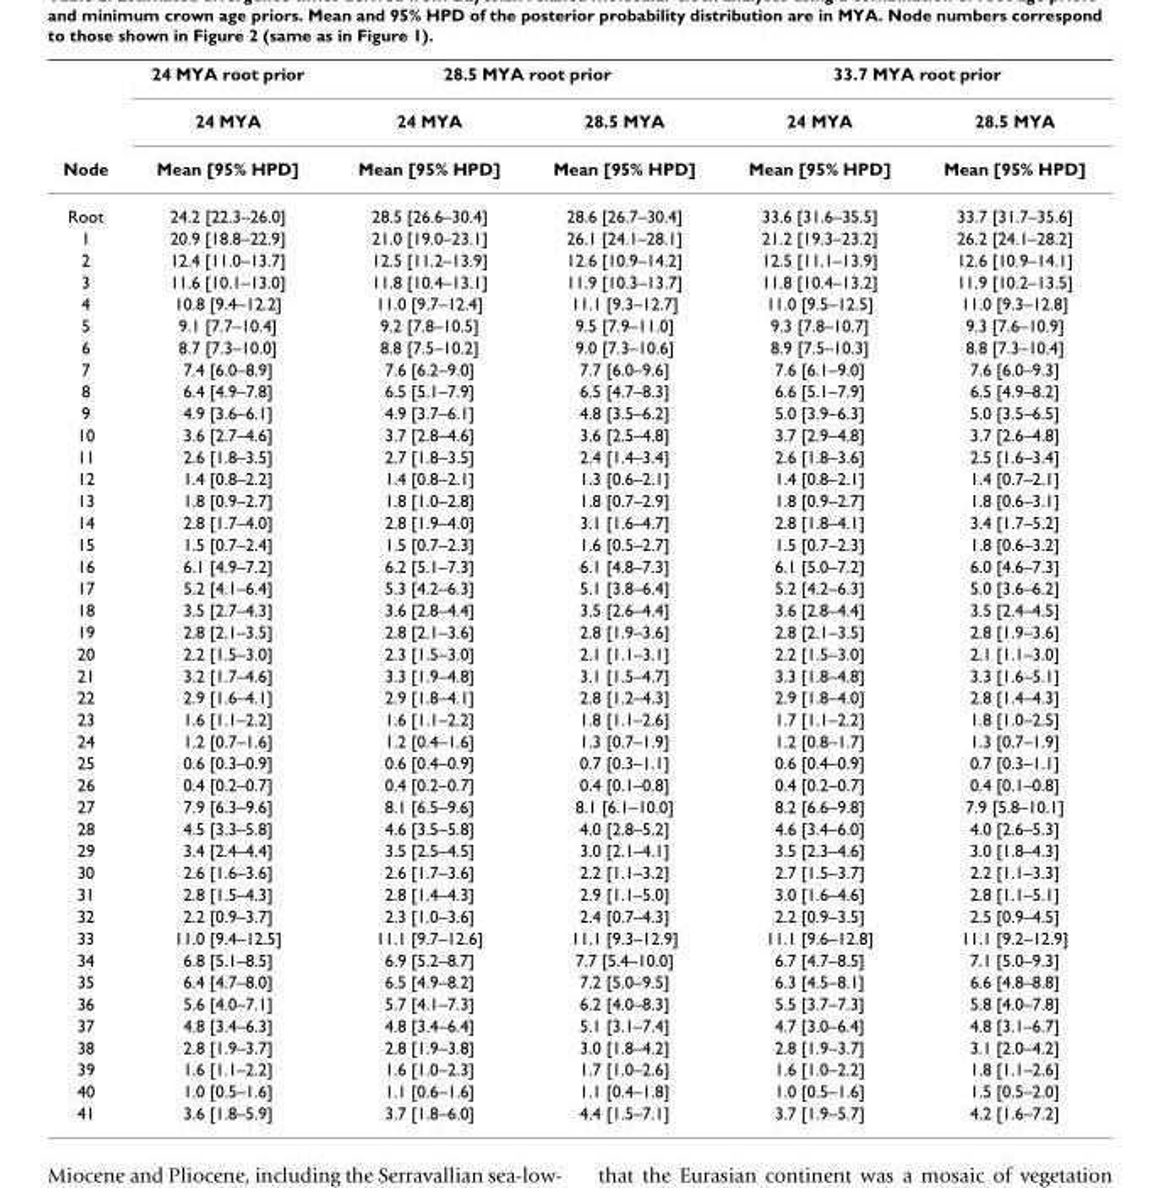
<table><thead><tr><td rowspan="3">Node</td><td rowspan="3">24 MYA root prior 24 MYA Mean [95% HPD]</td><td colspan="2">28.5 MYA root prior</td><td colspan="2">33.7 MYA root prior</td></tr><tr><td rowspan="2">24 MYA Mean [95% HPD]</td><td rowspan="2">28.5 MYA Mean [95% HPD]</td><td rowspan="2">24 MYA Mean [95% HPD]</td><td rowspan="2">28.5 MYA Mean [95% HPD]</td></tr><tr></tr></thead><tbody><tr><td>Root</td><td>24.2 [22.3–26.0]</td><td>28.5 [26.6–30.4]</td><td>28.6 [26.7–30.4]</td><td>33.6 [31.6–35.5]</td><td>33.7 [31.7–35.6]</td></tr><tr><td>1</td><td>20.9 [18.8–22.9]</td><td>21.0 [19.0–23.1]</td><td>26.1 [24.1–28.1]</td><td>21.2 [19.3–23.2]</td><td>26.2 [24.1–28.2]</td></tr><tr><td>2</td><td>12.4 [11.0–13.7]</td><td>12.5 [11.2–13.9]</td><td>12.6 [10.9–14.2]</td><td>12.5 [11.1–13.9]</td><td>12.6 [10.9–14.1]</td></tr><tr><td>3</td><td>11.6 [10.1–13.0]</td><td>11.8 [10.4–13.1]</td><td>11.9 [10.3–13.7]</td><td>11.8 [10.4–13.2]</td><td>11.9 [10.2–13.5]</td></tr><tr><td>4</td><td>10.8 [9.4–12.2]</td><td>11.0 [9.7–12.4]</td><td>11.1 [9.3–12.7]</td><td>11.0 [9.5–12.5]</td><td>11.0 [9.3–12.8]</td></tr><tr><td>5</td><td>9.1 [7.7–10.4]</td><td>9.2 [7.8–10.5]</td><td>9.5 [7.9–11.0]</td><td>9.3 [7.8–10.7]</td><td>9.3 [7.6–10.9]</td></tr><tr><td>6</td><td>8.7 [7.3–10.0]</td><td>8.8 [7.5–10.2]</td><td>9.0 [7.3–10.6]</td><td>8.9 [7.5–10.3]</td><td>8.8 [7.3–10.4]</td></tr><tr><td>7</td><td>7.4 [6.0–8.9]</td><td>7.6 [6.2–9.0]</td><td>7.7 [6.0–9.6]</td><td>7.6 [6.1–9.0]</td><td>7.6 [6.0–9.3]</td></tr><tr><td>8</td><td>6.4 [4.9–7.8]</td><td>6.5 [5.1–7.9]</td><td>6.5 [4.7–8.3]</td><td>6.6 [5.1–7.9]</td><td>6.5 [4.9–8.2]</td></tr><tr><td>9</td><td>4.9 [3.6–6.1]</td><td>4.9 [3.7–6.1]</td><td>4.8 [3.5–6.2]</td><td>5.0 [3.9–6.3]</td><td>5.0 [3.5–6.5]</td></tr><tr><td>10</td><td>3.6 [2.7–4.6]</td><td>3.7 [2.8–4.6]</td><td>3.6 [2.5–4.8]</td><td>3.7 [2.9–4.8]</td><td>3.7 [2.6–4.8]</td></tr><tr><td>11</td><td>2.6 [1.8–3.5]</td><td>2.7 [1.8–3.5]</td><td>2.4 [1.4–3.4]</td><td>2.6 [1.8–3.6]</td><td>2.5 [1.6–3.4]</td></tr><tr><td>12</td><td>1.4 [0.8–2.2]</td><td>1.4 [0.8–2.1]</td><td>1.3 [0.6–2.1]</td><td>1.4 [0.8–2.1]</td><td>1.4 [0.7–2.1]</td></tr><tr><td>13</td><td>1.8 [0.9–2.7]</td><td>1.8 [1.0–2.8]</td><td>1.8 [0.7–2.9]</td><td>1.8 [0.9–2.7]</td><td>1.8 [0.6–3.1]</td></tr><tr><td>14</td><td>2.8 [1.7–4.0]</td><td>2.8 [1.9–4.0]</td><td>3.1 [1.6–4.7]</td><td>2.8 [1.8–4.1]</td><td>3.4 [1.7–5.2]</td></tr><tr><td>15</td><td>1.5 [0.7–2.4]</td><td>1.5 [0.7–2.3]</td><td>1.6 [0.5–2.7]</td><td>1.5 [0.7–2.3]</td><td>1.8 [0.6–3.2]</td></tr><tr><td>16</td><td>6.1 [4.9–7.2]</td><td>6.2 [5.1–7.3]</td><td>6.1 [4.8–7.3]</td><td>6.1 [5.0–7.2]</td><td>6.0 [4.6–7.3]</td></tr><tr><td>17</td><td>5.2 [4.1–6.4]</td><td>5.3 [4.2–6.3]</td><td>5.1 [3.8–6.4]</td><td>5.2 [4.2–6.3]</td><td>5.0 [3.6–6.2]</td></tr><tr><td>18</td><td>3.5 [2.7–4.3]</td><td>3.6 [2.8–4.4]</td><td>3.5 [2.6–4.4]</td><td>3.6 [2.8–4.4]</td><td>3.5 [2.4–4.5]</td></tr><tr><td>19</td><td>2.8 [2.1–3.5]</td><td>2.8 [2.1–3.6]</td><td>2.8 [1.9–3.6]</td><td>2.8 [2.1–3.5]</td><td>2.8 [1.9–3.6]</td></tr><tr><td>20</td><td>2.2 [1.5–3.0]</td><td>2.3 [1.5–3.0]</td><td>2.1 [1.1–3.1]</td><td>2.2 [1.5–3.0]</td><td>2.1 [1.1–3.0]</td></tr><tr><td>21</td><td>3.2 [1.7–4.6]</td><td>3.3 [1.9–4.8]</td><td>3.1 [1.5–4.7]</td><td>3.3 [1.8–4.8]</td><td>3.3 [1.6–5.1]</td></tr><tr><td>22</td><td>2.9 [1.6–4.1]</td><td>2.9 [1.8–4.1]</td><td>2.8 [1.2–4.3]</td><td>2.9 [1.8–4.0]</td><td>2.8 [1.4–4.3]</td></tr><tr><td>23</td><td>1.6 [1.1–2.2]</td><td>1.6 [1.1–2.2]</td><td>1.8 [1.1–2.6]</td><td>1.7 [1.1–2.2]</td><td>1.8 [1.0–2.5]</td></tr><tr><td>24</td><td>1.2 [0.7–1.6]</td><td>1.2 [0.4–1.6]</td><td>1.3 [0.7–1.9]</td><td>1.2 [0.8–1.7]</td><td>1.3 [0.7–1.9]</td></tr><tr><td>25</td><td>0.6 [0.3–0.9]</td><td>0.6 [0.4–0.9]</td><td>0.7 [0.3–1.1]</td><td>0.6 [0.4–0.9]</td><td>0.7 [0.3–1.1]</td></tr><tr><td>26</td><td>0.4 [0.2–0.7]</td><td>0.4 [0.2–0.7]</td><td>0.4 [0.1–0.8]</td><td>0.4 [0.2–0.7]</td><td>0.4 [0.1–0.8]</td></tr><tr><td>27</td><td>7.9 [6.3–9.6]</td><td>8.1 [6.5–9.6]</td><td>8.1 [6.1–10.0]</td><td>8.2 [6.6–9.8]</td><td>7.9 [5.8–10.1]</td></tr><tr><td>28</td><td>4.5 [3.3–5.8]</td><td>4.6 [3.5–5.8]</td><td>4.0 [2.8–5.2]</td><td>4.6 [3.4–6.0]</td><td>4.0 [2.6–5.3]</td></tr><tr><td>29</td><td>3.4 [2.4–4.4]</td><td>3.5 [2.5–4.5]</td><td>3.0 [2.1–4.1]</td><td>3.5 [2.3–4.6]</td><td>3.0 [1.8–4.3]</td></tr><tr><td>30</td><td>2.6 [1.6–3.6]</td><td>2.6 [1.7–3.6]</td><td>2.2 [1.1–3.2]</td><td>2.7 [1.5–3.7]</td><td>2.2 [1.1–3.3]</td></tr><tr><td>31</td><td>2.8 [1.5–4.3]</td><td>2.8 [1.4–4.3]</td><td>2.9 [1.1–5.0]</td><td>3.0 [1.6–4.6]</td><td>2.8 [1.1–5.1]</td></tr><tr><td>32</td><td>2.2 [0.9–3.7]</td><td>2.3 [1.0–3.6]</td><td>2.4 [0.7–4.3]</td><td>2.2 [0.9–3.5]</td><td>2.5 [0.9–4.5]</td></tr><tr><td>33</td><td>11.0 [9.4–12.5]</td><td>11.1 [9.7–12.6]</td><td>11.1 [9.3–12.9]</td><td>11.1 [9.6–12.8]</td><td>11.1 [9.2–12.9]</td></tr><tr><td>34</td><td>6.8 [5.1–8.5]</td><td>6.9 [5.2–8.7]</td><td>7.7 [5.4–10.0]</td><td>6.7 [4.7–8.5]</td><td>7.1 [5.0–9.3]</td></tr><tr><td>35</td><td>6.4 [4.7–8.0]</td><td>6.5 [4.9–8.2]</td><td>7.2 [5.0–9.5]</td><td>6.3 [4.5–8.1]</td><td>6.6 [4.8–8.8]</td></tr><tr><td>36</td><td>5.6 [4.0–7.1]</td><td>5.7 [4.1–7.3]</td><td>6.2 [4.0–8.3]</td><td>5.5 [3.7–7.3]</td><td>5.8 [4.0–7.8]</td></tr><tr><td>37</td><td>4.8 [3.4–6.3]</td><td>4.8 [3.4–6.4]</td><td>5.1 [3.1–7.4]</td><td>4.7 [3.0–6.4]</td><td>4.8 [3.1–6.7]</td></tr><tr><td>38</td><td>2.8 [1.9–3.7]</td><td>2.8 [1.9–3.8]</td><td>3.0 [1.8–4.2]</td><td>2.8 [1.9–3.7]</td><td>3.1 [2.0–4.2]</td></tr><tr><td>39</td><td>1.6 [1.1–2.2]</td><td>1.6 [1.0–2.3]</td><td>1.7 [1.0–2.6]</td><td>1.6 [1.0–2.2]</td><td>1.8 [1.1–2.6]</td></tr><tr><td>40</td><td>1.0 [0.5–1.6]</td><td>1.1 [0.6–1.6]</td><td>1.1 [0.4–1.8]</td><td>1.0 [0.5–1.6]</td><td>1.5 [0.5–2.0]</td></tr><tr><td>41</td><td>3.6 [1.8–5.9]</td><td>3.7 [1.8–6.0]</td><td>4.4 [1.5–7.1]</td><td>3.7 [1.9–5.7]</td><td>4.2 [1.6–7.2]</td></tr></tbody></table>